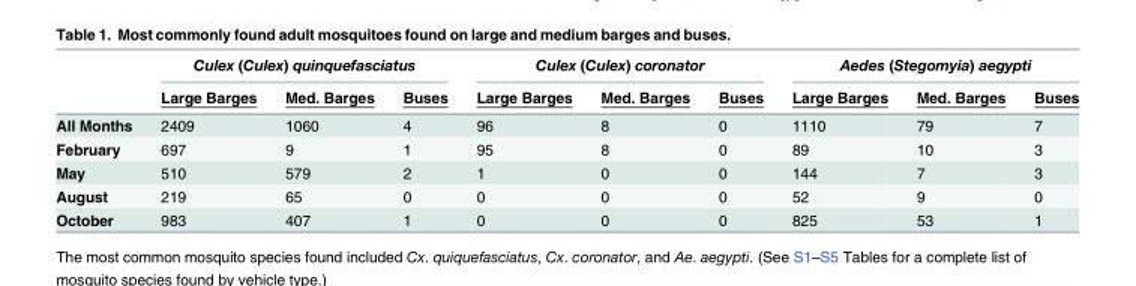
<table><thead><tr><td rowspan="2"></td><td colspan="3">Culex (Culex) quinquefasciatus</td><td colspan="3">Culex (Culex) coronator</td><td colspan="3">Aedes (Stegomyia) aegypti</td></tr><tr><td>Large Barges</td><td>Med. Barges</td><td>Buses</td><td>Large Barges</td><td>Med. Barges</td><td>Buses</td><td>Large Barges</td><td>Med. Barges</td><td>Buses</td></tr></thead><tbody><tr><td>All Months</td><td>2409</td><td>1060</td><td>4</td><td>96</td><td>8</td><td>0</td><td>1110</td><td>79</td><td>7</td></tr><tr><td>February</td><td>697</td><td>9</td><td>1</td><td>95</td><td>8</td><td>0</td><td>89</td><td>10</td><td>3</td></tr><tr><td>May</td><td>510</td><td>579</td><td>2</td><td>1</td><td>0</td><td>0</td><td>144</td><td>7</td><td>3</td></tr><tr><td>August</td><td>219</td><td>65</td><td>0</td><td>0</td><td>0</td><td>0</td><td>52</td><td>9</td><td>0</td></tr><tr><td>October</td><td>983</td><td>407</td><td>1</td><td>0</td><td>0</td><td>0</td><td>825</td><td>53</td><td>1</td></tr></tbody></table>